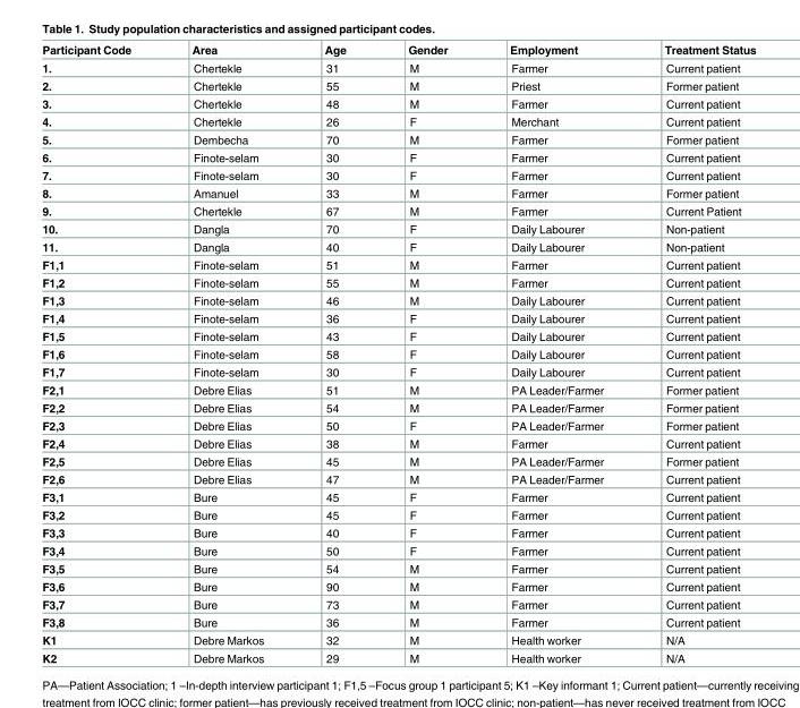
<table><thead><tr><td>Participant Code</td><td>Area</td><td>Age</td><td>Gender</td><td>Employment</td><td>Treatment Status</td></tr></thead><tbody><tr><td>1.</td><td>Chertekle</td><td>31</td><td>M</td><td>Farmer</td><td>Current patient</td></tr><tr><td>2.</td><td>Chertekle</td><td>55</td><td>M</td><td>Priest</td><td>Former patient</td></tr><tr><td>3.</td><td>Chertekle</td><td>48</td><td>M</td><td>Farmer</td><td>Current patient</td></tr><tr><td>4.</td><td>Chertekle</td><td>26</td><td>F</td><td>Merchant</td><td>Current patient</td></tr><tr><td>5.</td><td>Dembecha</td><td>70</td><td>M</td><td>Farmer</td><td>Former patient</td></tr><tr><td>6.</td><td>Finote-selam</td><td>30</td><td>F</td><td>Farmer</td><td>Current patient</td></tr><tr><td>7.</td><td>Finote-selam</td><td>30</td><td>F</td><td>Farmer</td><td>Current patient</td></tr><tr><td>8.</td><td>Amanuel</td><td>33</td><td>M</td><td>Farmer</td><td>Former patient</td></tr><tr><td>9.</td><td>Chertekle</td><td>67</td><td>M</td><td>Farmer</td><td>Current Patient</td></tr><tr><td>10.</td><td>Dangla</td><td>70</td><td>F</td><td>Daily Labourer</td><td>Non-patient</td></tr><tr><td>11.</td><td>Dangla</td><td>40</td><td>F</td><td>Daily Labourer</td><td>Non-patient</td></tr><tr><td>F1,1</td><td>Finote-selam</td><td>51</td><td>M</td><td>Farmer</td><td>Current patient</td></tr><tr><td>F1,2</td><td>Finote-selam</td><td>55</td><td>M</td><td>Farmer</td><td>Current patient</td></tr><tr><td>F1,3</td><td>Finote-selam</td><td>46</td><td>M</td><td>Daily Labourer</td><td>Current patient</td></tr><tr><td>F1,4</td><td>Finote-selam</td><td>36</td><td>F</td><td>Daily Labourer</td><td>Current patient</td></tr><tr><td>F1,5</td><td>Finote-selam</td><td>43</td><td>F</td><td>Daily Labourer</td><td>Current patient</td></tr><tr><td>F1,6</td><td>Finote-selam</td><td>58</td><td>F</td><td>Daily Labourer</td><td>Current patient</td></tr><tr><td>F1,7</td><td>Finote-selam</td><td>30</td><td>F</td><td>Daily Labourer</td><td>Current patient</td></tr><tr><td>F2,1</td><td>Debre Elias</td><td>51</td><td>M</td><td>PA Leader/Farmer</td><td>Former patient</td></tr><tr><td>F2,2</td><td>Debre Elias</td><td>54</td><td>M</td><td>PA Leader/Farmer</td><td>Former patient</td></tr><tr><td>F2,3</td><td>Debre Elias</td><td>50</td><td>F</td><td>PA Leader/Farmer</td><td>Former patient</td></tr><tr><td>F2,4</td><td>Debre Elias</td><td>38</td><td>M</td><td>Farmer</td><td>Current patient</td></tr><tr><td>F2,5</td><td>Debre Elias</td><td>45</td><td>M</td><td>PA Leader/Farmer</td><td>Former patient</td></tr><tr><td>F2,6</td><td>Debre Elias</td><td>47</td><td>M</td><td>PA Leader/Farmer</td><td>Current patient</td></tr><tr><td>F3,1</td><td>Bure</td><td>45</td><td>F</td><td>Farmer</td><td>Current patient</td></tr><tr><td>F3,2</td><td>Bure</td><td>45</td><td>F</td><td>Farmer</td><td>Current patient</td></tr><tr><td>F3,3</td><td>Bure</td><td>40</td><td>F</td><td>Farmer</td><td>Current patient</td></tr><tr><td>F3,4</td><td>Bure</td><td>50</td><td>F</td><td>Farmer</td><td>Current patient</td></tr><tr><td>F3,5</td><td>Bure</td><td>54</td><td>M</td><td>Farmer</td><td>Current patient</td></tr><tr><td>F3,6</td><td>Bure</td><td>90</td><td>M</td><td>Farmer</td><td>Current patient</td></tr><tr><td>F3,7</td><td>Bure</td><td>73</td><td>M</td><td>Farmer</td><td>Current patient</td></tr><tr><td>F3,8</td><td>Bure</td><td>36</td><td>M</td><td>Farmer</td><td>Current patient</td></tr><tr><td>K1</td><td>Debre Markos</td><td>32</td><td>M</td><td>Health worker</td><td>N/A</td></tr><tr><td>K2</td><td>Debre Markos</td><td>29</td><td>M</td><td>Health worker</td><td>N/A</td></tr></tbody></table>